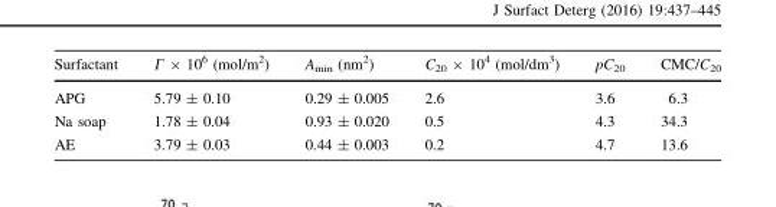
<table><thead><tr><td>Surfactant</td><td>Γ × 10<sup>6</sup> (mol/m<sup>2</sup>)</td><td>A<sub>min</sub> (nm<sup>2</sup>)</td><td>C<sub>20</sub> × 10<sup>4</sup> (mol/dm<sup>3</sup>)</td><td>pC<sub>20</sub></td><td>CMC/C<sub>20</sub></td></tr></thead><tbody><tr><td>APG</td><td>5.79 ± 0.10</td><td>0.29 ± 0.005</td><td>2.6</td><td>3.6</td><td>6.3</td></tr><tr><td>Na soap</td><td>1.78 ± 0.04</td><td>0.93 ± 0.020</td><td>0.5</td><td>4.3</td><td>34.3</td></tr><tr><td>AE</td><td>3.79 ± 0.03</td><td>0.44 ± 0.003</td><td>0.2</td><td>4.7</td><td>13.6</td></tr></tbody></table>